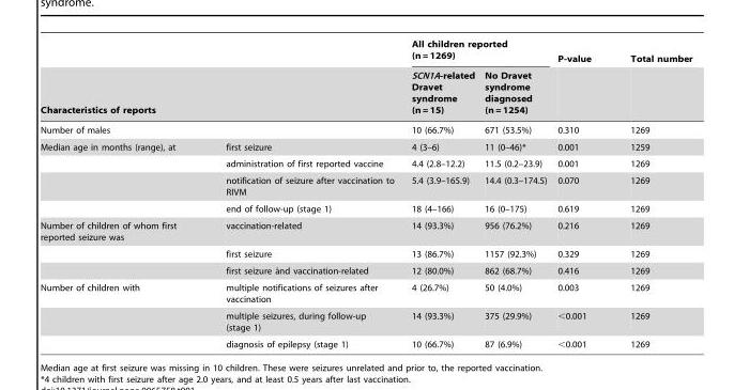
<table><thead><tr><td></td><td></td><td colspan="2">All children reported (n = 1269)</td><td rowspan="2">P-value</td><td rowspan="2">Total number</td></tr><tr><td colspan="2">Characteristics of reports</td><td>SCN1A-related Dravet syndrome (n = 15)</td><td>No Dravet syndrome diagnosed (n = 1254)</td></tr></thead><tbody><tr><td>Number of males</td><td></td><td>10 (66.7%)</td><td>671 (53.5%)</td><td>0.310</td><td>1269</td></tr><tr><td rowspan="4">Median age in months (range), at</td><td>first seizure</td><td>4 (3–6)</td><td>11 (0–46)*</td><td>0.001</td><td>1259</td></tr><tr><td>administration of first reported vaccine</td><td>4.4 (2.8–12.2)</td><td>11.5 (0.2–23.9)</td><td>0.001</td><td>1269</td></tr><tr><td>notification of seizure after vaccination to RIVM</td><td>5.4 (3.9–165.9)</td><td>14.4 (0.3–174.5)</td><td>0.070</td><td>1269</td></tr><tr><td>end of follow-up (stage 1)</td><td>18 (4–166)</td><td>16 (0–175)</td><td>0.619</td><td>1269</td></tr><tr><td rowspan="3">Number of children of whom first reported seizure was</td><td>vaccination-related</td><td>14 (93.3%)</td><td>956 (76.2%)</td><td>0.216</td><td>1269</td></tr><tr><td>first seizure</td><td>13 (86.7%)</td><td>1157 (92.3%)</td><td>0.329</td><td>1269</td></tr><tr><td>first seizure a`nd vaccination-related</td><td>12 (80.0%)</td><td>862 (68.7%)</td><td>0.416</td><td>1269</td></tr><tr><td rowspan="3">Number of children with</td><td>multiple notifications of seizures after vaccination</td><td>4 (26.7%)</td><td>50 (4.0%)</td><td>0.003</td><td>1269</td></tr><tr><td>multiple seizures, during follow-up (stage 1)</td><td>14 (93.3%)</td><td>375 (29.9%)</td><td>&lt;0.001</td><td>1269</td></tr><tr><td>diagnosis of epilepsy (stage 1)</td><td>10 (66.7%)</td><td>87 (6.9%)</td><td>&lt;0.001</td><td>1269</td></tr></tbody></table>